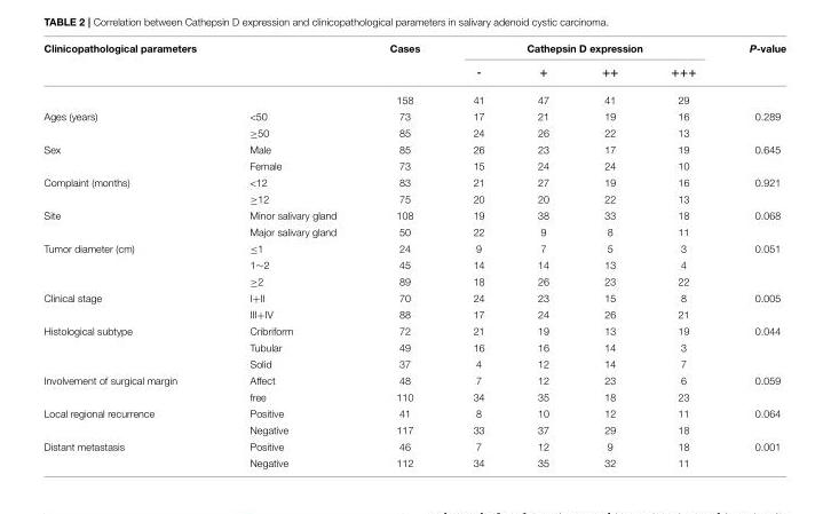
<table><thead><tr><td rowspan="2">Clinicopathological parameters</td><td rowspan="2"></td><td rowspan="2">Cases</td><td colspan="4">Cathepsin D expression</td><td rowspan="2">P-value</td></tr><tr><td>-</td><td>+</td><td>++</td><td>+++</td></tr></thead><tbody><tr><td></td><td></td><td>158</td><td>41</td><td>47</td><td>41</td><td>29</td><td></td></tr><tr><td rowspan="2">Ages (years)</td><td>&lt;50</td><td>73</td><td>17</td><td>21</td><td>19</td><td>16</td><td>0.289</td></tr><tr><td>≥50</td><td>85</td><td>24</td><td>26</td><td>22</td><td>13</td><td></td></tr><tr><td rowspan="2">Sex</td><td>Male</td><td>85</td><td>26</td><td>23</td><td>17</td><td>19</td><td>0.645</td></tr><tr><td>Female</td><td>73</td><td>15</td><td>24</td><td>24</td><td>10</td><td></td></tr><tr><td rowspan="2">Complaint (months)</td><td>&lt;12</td><td>83</td><td>21</td><td>27</td><td>19</td><td>16</td><td>0.921</td></tr><tr><td>≥12</td><td>75</td><td>20</td><td>20</td><td>22</td><td>13</td><td></td></tr><tr><td rowspan="2">Site</td><td>Minor salivary gland</td><td>108</td><td>19</td><td>38</td><td>33</td><td>18</td><td>0.068</td></tr><tr><td>Major salivary gland</td><td>50</td><td>22</td><td>9</td><td>8</td><td>11</td><td></td></tr><tr><td rowspan="3">Tumor diameter (cm)</td><td>≤1</td><td>24</td><td>9</td><td>7</td><td>5</td><td>3</td><td>0.051</td></tr><tr><td>1∼2</td><td>45</td><td>14</td><td>14</td><td>13</td><td>4</td><td></td></tr><tr><td>≥2</td><td>89</td><td>18</td><td>26</td><td>23</td><td>22</td><td></td></tr><tr><td rowspan="2">Clinical stage</td><td>I+II</td><td>70</td><td>24</td><td>23</td><td>15</td><td>8</td><td>0.005</td></tr><tr><td>III+IV</td><td>88</td><td>17</td><td>24</td><td>26</td><td>21</td><td></td></tr><tr><td rowspan="3">Histological subtype</td><td>Cribriform</td><td>72</td><td>21</td><td>19</td><td>13</td><td>19</td><td>0.044</td></tr><tr><td>Tubular</td><td>49</td><td>16</td><td>16</td><td>14</td><td>3</td><td></td></tr><tr><td>Solid</td><td>37</td><td>4</td><td>12</td><td>14</td><td>7</td><td></td></tr><tr><td rowspan="2">Involvement of surgical margin</td><td>Affect</td><td>48</td><td>7</td><td>12</td><td>23</td><td>6</td><td>0.059</td></tr><tr><td>free</td><td>110</td><td>34</td><td>35</td><td>18</td><td>23</td><td></td></tr><tr><td rowspan="2">Local regional recurrence</td><td>Positive</td><td>41</td><td>8</td><td>10</td><td>12</td><td>11</td><td>0.064</td></tr><tr><td>Negative</td><td>117</td><td>33</td><td>37</td><td>29</td><td>18</td><td></td></tr><tr><td rowspan="2">Distant metastasis</td><td>Positive</td><td>46</td><td>7</td><td>12</td><td>9</td><td>18</td><td>0.001</td></tr><tr><td>Negative</td><td>112</td><td>34</td><td>35</td><td>32</td><td>11</td><td></td></tr></tbody></table>